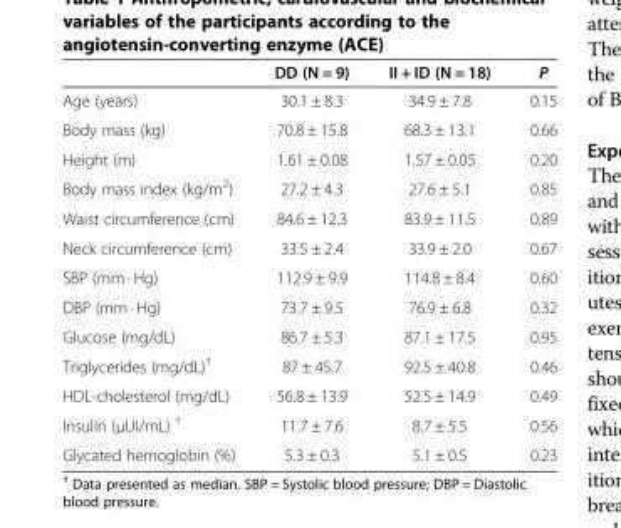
<table><thead><tr><td></td><td>DD (N = 9)</td><td>II + ID (N = 18)</td><td>P</td></tr></thead><tbody><tr><td>Age (years)</td><td>30.1 ± 8.3</td><td>34.9 ± 7.8</td><td>0.15</td></tr><tr><td>Body mass (kg)</td><td>70.8 ± 15.8</td><td>68.3 ± 13.1</td><td>0.66</td></tr><tr><td>Height (m)</td><td>1.61 ± 0.08</td><td>1.57 ± 0.05</td><td>0.20</td></tr><tr><td>Body mass index (kg/m<sup>2</sup>)</td><td>27.2 ± 4.3</td><td>27.6 ± 5.1</td><td>0.85</td></tr><tr><td>Waist circumference (cm)</td><td>84.6 ± 12.3</td><td>83.9 ± 11.5</td><td>0.89</td></tr><tr><td>Neck circumference (cm)</td><td>33.5 ± 2.4</td><td>33.9 ± 2.0</td><td>0.67</td></tr><tr><td>SBP (mm · Hg)</td><td>112.9 ± 9.9</td><td>114.8 ± 8.4</td><td>0.60</td></tr><tr><td>DBP (mm · Hg)</td><td>73.7 ± 9.5</td><td>76.9 ± 6.8</td><td>0.32</td></tr><tr><td>Glucose (mg/dL)</td><td>86.7 ± 5.3</td><td>87.1 ± 17.5</td><td>0.95</td></tr><tr><td>Triglycerides (mg/dL)<sup>†</sup></td><td>87 ± 45.7</td><td>92.5 ± 40.8</td><td>0.46</td></tr><tr><td>HDL-cholesterol (mg/dL)</td><td>56.8 ± 13.9</td><td>52.5 ± 14.9</td><td>0.49</td></tr><tr><td>Insulin (μUI/mL) <sup>†</sup></td><td>11.7 ± 7.6</td><td>8.7 ± 5.5</td><td>0.56</td></tr><tr><td>Glycated hemoglobin (%)</td><td>5.3 ± 0.3</td><td>5.1 ± 0.5</td><td>0.23</td></tr></tbody></table>